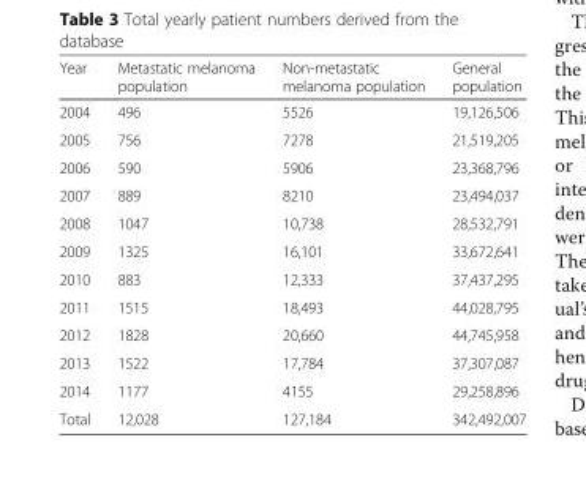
<table><thead><tr><td>Year</td><td>Metastatic melanoma population</td><td>Non-metastatic melanoma population</td><td>General population</td></tr></thead><tbody><tr><td>2004</td><td>496</td><td>5526</td><td>19,126,506</td></tr><tr><td>2005</td><td>756</td><td>7278</td><td>21,519,205</td></tr><tr><td>2006</td><td>590</td><td>5906</td><td>23,368,796</td></tr><tr><td>2007</td><td>889</td><td>8210</td><td>23,494,037</td></tr><tr><td>2008</td><td>1047</td><td>10,738</td><td>28,532,791</td></tr><tr><td>2009</td><td>1325</td><td>16,101</td><td>33,672,641</td></tr><tr><td>2010</td><td>883</td><td>12,333</td><td>37,437,295</td></tr><tr><td>2011</td><td>1515</td><td>18,493</td><td>44,028,795</td></tr><tr><td>2012</td><td>1828</td><td>20,660</td><td>44,745,958</td></tr><tr><td>2013</td><td>1522</td><td>17,784</td><td>37,307,087</td></tr><tr><td>2014</td><td>1177</td><td>4155</td><td>29,258,896</td></tr><tr><td>Total</td><td>12,028</td><td>127,184</td><td>342,492,007</td></tr></tbody></table>